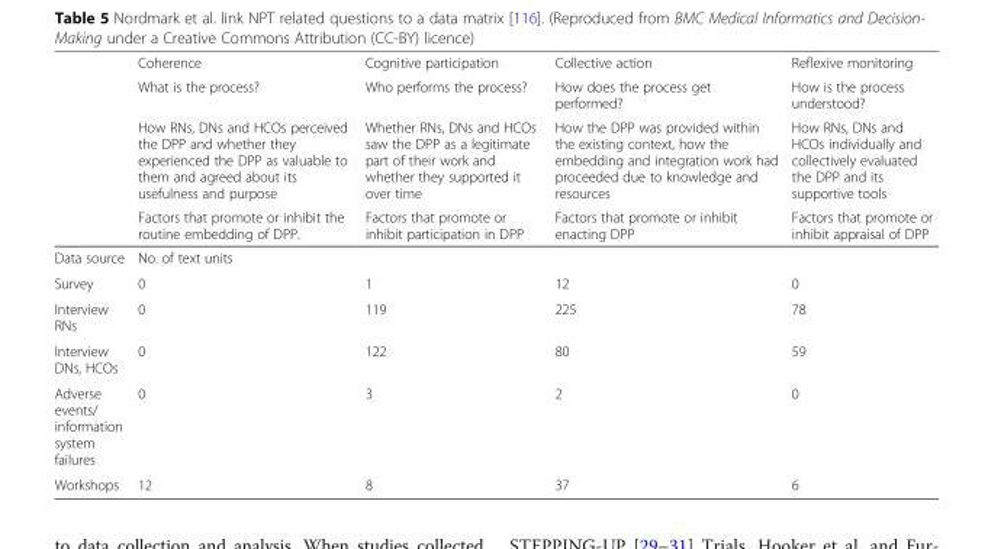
<table><thead><tr><td rowspan="4"></td><td rowspan="4">Coherence What is the process? How RNs, DNs and HCOs perceived the DPP and whether they experienced the DPP as valuable to them and agreed about its usefulness and purpose Factors that promote or inhibit the routine embedding of DPP.</td><td rowspan="4">Cognitive participation Who performs the process? Whether RNs, DNs and HCOs saw the DPP as a legitimate part of their work and whether they supported it over time Factors that promote or inhibit participation in DPP</td><td rowspan="4">Collective action How does the process get performed? How the DPP was provided within the existing context, how the embedding and integration work had proceeded due to knowledge and resources Factors that promote or inhibit enacting DPP</td><td rowspan="4">Reflexive monitoring How is the process understood? How RNs, DNs and HCOs individually and collectively evaluated the DPP and its supportive tools Factors that promote or inhibit appraisal of DPP</td></tr><tr></tr><tr></tr><tr></tr></thead><tbody><tr><td>Data source</td><td colspan="4">No. of text units</td></tr><tr><td>Survey</td><td>0</td><td>1</td><td>12</td><td>0</td></tr><tr><td>Interview RNs</td><td>0</td><td>119</td><td>225</td><td>78</td></tr><tr><td>Interview DNs, HCOs</td><td>0</td><td>122</td><td>80</td><td>59</td></tr><tr><td>Adverse events/ information system failures</td><td>0</td><td>3</td><td>2</td><td>0</td></tr><tr><td>Workshops</td><td>12</td><td>8</td><td>37</td><td>6</td></tr></tbody></table>